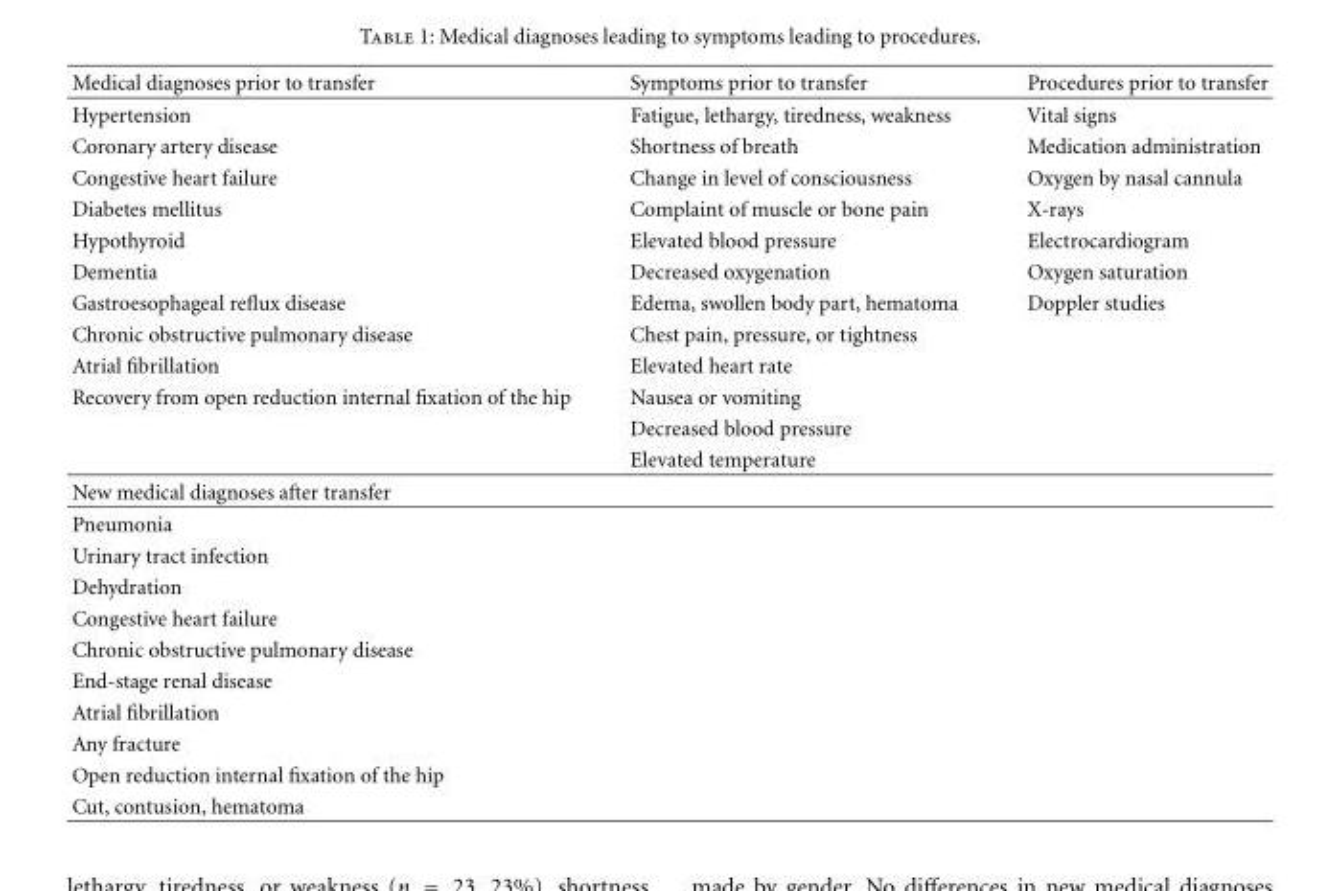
<table><thead><tr><td>Medical diagnoses prior to transfer</td><td>Symptoms prior to transfer</td><td>Procedures prior to transfer</td></tr></thead><tbody><tr><td>Hypertension</td><td>Fatigue, lethargy, tiredness, weakness</td><td>Vital signs</td></tr><tr><td>Coronary artery disease</td><td>Shortness of breath</td><td>Medication administration</td></tr><tr><td>Congestive heart failure</td><td>Change in level of consciousness</td><td>Oxygen by nasal cannula</td></tr><tr><td>Diabetes mellitus</td><td>Complaint of muscle or bone pain</td><td>X-rays</td></tr><tr><td>Hypothyroid</td><td>Elevated blood pressure</td><td>Electrocardiogram</td></tr><tr><td>Dementia</td><td>Decreased oxygenation</td><td>Oxygen saturation</td></tr><tr><td>Gastroesophageal reflux disease</td><td>Edema, swollen body part, hematoma</td><td>Doppler studies</td></tr><tr><td>Chronic obstructive pulmonary disease</td><td>Chest pain, pressure, or tightness</td><td></td></tr><tr><td>Atrial fibrillation</td><td>Elevated heart rate</td><td></td></tr><tr><td rowspan="3">Recovery from open reduction internal fixation of the hip</td><td>Nausea or vomiting</td><td></td></tr><tr><td>Decreased blood pressure</td><td></td></tr><tr><td>Elevated temperature</td><td></td></tr><tr><td colspan="3">New medical diagnoses after transfer</td></tr><tr><td colspan="3">Pneumonia</td></tr><tr><td colspan="3">Urinary tract infection</td></tr><tr><td colspan="3">Dehydration</td></tr><tr><td colspan="3">Congestive heart failure</td></tr><tr><td colspan="3">Chronic obstructive pulmonary disease</td></tr><tr><td colspan="3">End-stage renal disease</td></tr><tr><td colspan="3">Atrial fibrillation</td></tr><tr><td colspan="3">Any fracture</td></tr><tr><td colspan="3">Open reduction internal fixation of the hip</td></tr><tr><td>Cut, contusion, hematoma</td><td></td><td></td></tr></tbody></table>